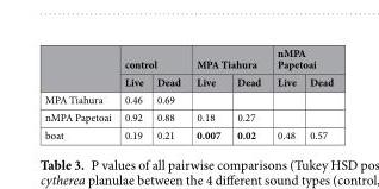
<table><thead><tr><td rowspan="2"></td><td colspan="2">control</td><td colspan="2">MPA Tiahura</td><td colspan="2">nMPA Papetoai</td></tr><tr><td>Live</td><td>Dead</td><td>Live</td><td>Dead</td><td>Live</td><td>Dead</td></tr></thead><tbody><tr><td>MPA Tiahura</td><td>0.46</td><td>0.69</td><td></td><td></td><td></td><td></td></tr><tr><td>nMPA Papetoai</td><td>0.92</td><td>0.88</td><td>0.18</td><td>0.27</td><td></td><td></td></tr><tr><td>boat</td><td>0.19</td><td>0.21</td><td>0.007</td><td>0.02</td><td>0.48</td><td>0.57</td></tr></tbody></table>